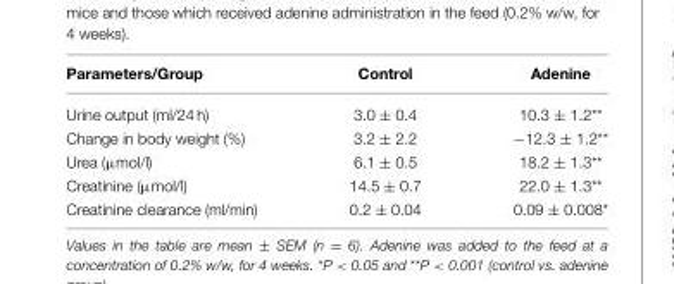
<table><thead><tr><td>Parameters/Group</td><td>Control</td><td>Adenine</td></tr></thead><tbody><tr><td>Urine output (ml/24 h)</td><td>3.0 ± 0.4</td><td>10.3 ± 1.2**</td></tr><tr><td>Change in body weight (%)</td><td>3.2 ± 2.2</td><td>−12.3 ± 1.2**</td></tr><tr><td>Urea (µmol/l)</td><td>6.1 ± 0.5</td><td>18.2 ± 1.3**</td></tr><tr><td>Creatinine (µmol/l)</td><td>14.5 ± 0.7</td><td>22.0 ± 1.3**</td></tr><tr><td>Creatinine clearance (ml/min)</td><td>0.2 ± 0.04</td><td>0.09 ± 0.008*</td></tr></tbody></table>